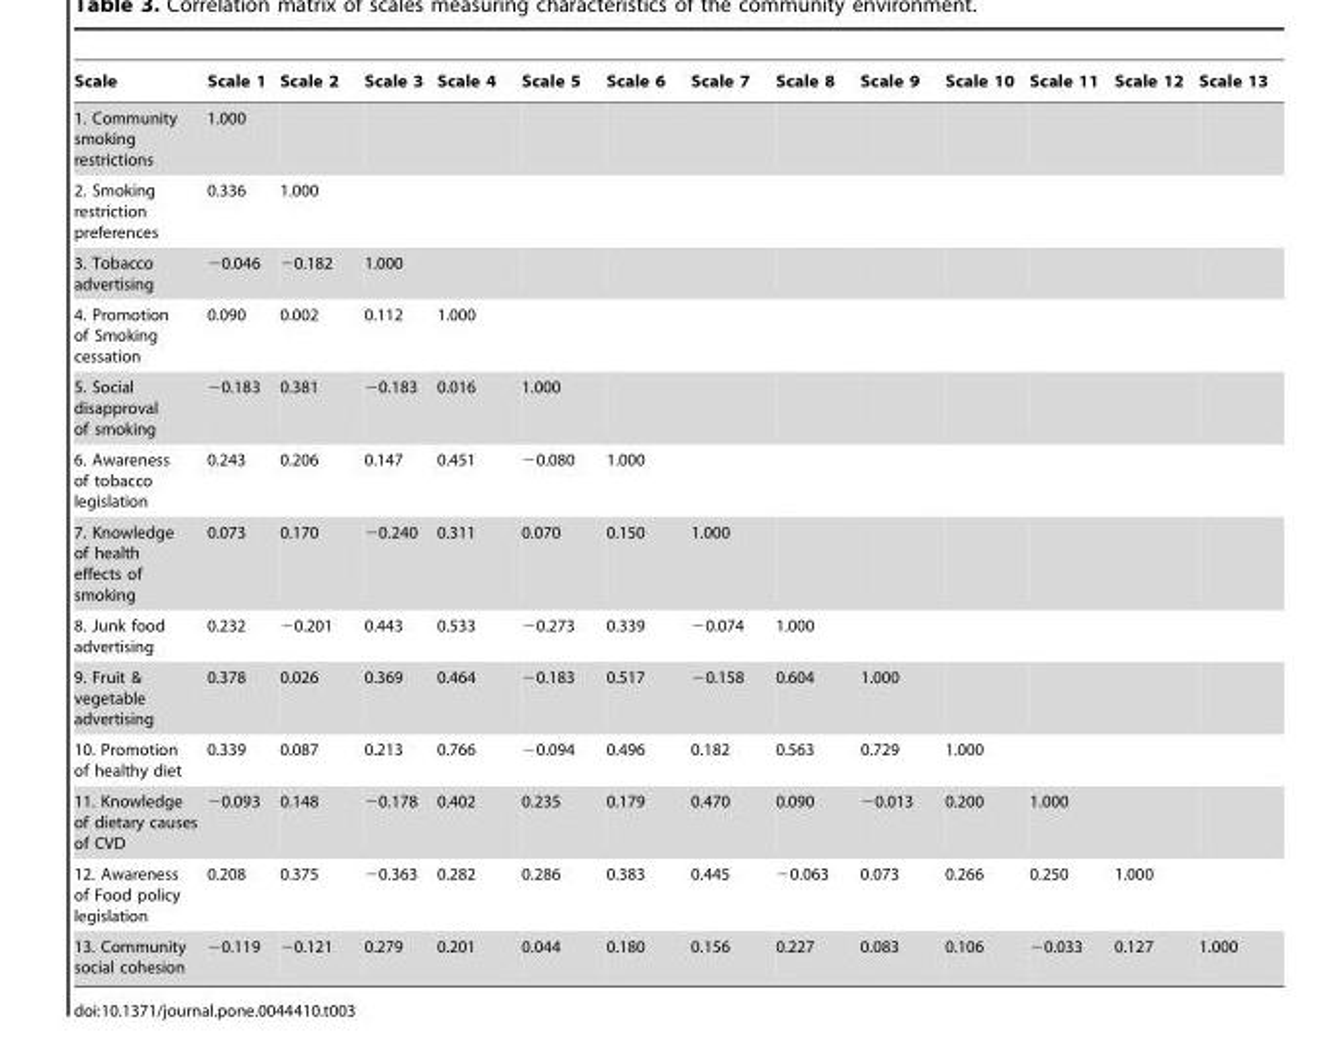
<table><thead><tr><td>Scale</td><td>Scale 1</td><td>Scale 2</td><td>Scale 3</td><td>Scale 4</td><td>Scale 5</td><td>Scale 6</td><td>Scale 7</td><td>Scale 8</td><td>Scale 9</td><td>Scale 10</td><td>Scale 11</td><td>Scale 12</td><td>Scale 13</td></tr></thead><tbody><tr><td>1. Community smoking restrictions</td><td>1.000</td><td></td><td></td><td></td><td></td><td></td><td></td><td></td><td></td><td></td><td></td><td></td><td></td></tr><tr><td>2. Smoking restriction preferences</td><td>0.336</td><td>1.000</td><td></td><td></td><td></td><td></td><td></td><td></td><td></td><td></td><td></td><td></td><td></td></tr><tr><td>3. Tobacco advertising</td><td>−0.046</td><td>−0.182</td><td>1.000</td><td></td><td></td><td></td><td></td><td></td><td></td><td></td><td></td><td></td><td></td></tr><tr><td>4. Promotion of Smoking cessation</td><td>0.090</td><td>0.002</td><td>0.112</td><td>1.000</td><td></td><td></td><td></td><td></td><td></td><td></td><td></td><td></td><td></td></tr><tr><td>5. Social disapproval of smoking</td><td>−0.183</td><td>0.381</td><td>−0.183</td><td>0.016</td><td>1.000</td><td></td><td></td><td></td><td></td><td></td><td></td><td></td><td></td></tr><tr><td>6. Awareness of tobacco legislation</td><td>0.243</td><td>0.206</td><td>0.147</td><td>0.451</td><td>−0.080</td><td>1.000</td><td></td><td></td><td></td><td></td><td></td><td></td><td></td></tr><tr><td>7. Knowledge of health effects of smoking</td><td>0.073</td><td>0.170</td><td>−0.240</td><td>0.311</td><td>0.070</td><td>0.150</td><td>1.000</td><td></td><td></td><td></td><td></td><td></td><td></td></tr><tr><td>8. Junk food advertising</td><td>0.232</td><td>−0.201</td><td>0.443</td><td>0.533</td><td>−0.273</td><td>0.339</td><td>−0.074</td><td>1.000</td><td></td><td></td><td></td><td></td><td></td></tr><tr><td>9. Fruit &amp; vegetable advertising</td><td>0.378</td><td>0.026</td><td>0.369</td><td>0.464</td><td>−0.183</td><td>0.517</td><td>−0.158</td><td>0.604</td><td>1.000</td><td></td><td></td><td></td><td></td></tr><tr><td>10. Promotion of healthy diet</td><td>0.339</td><td>0.087</td><td>0.213</td><td>0.766</td><td>−0.094</td><td>0.496</td><td>0.182</td><td>0.563</td><td>0.729</td><td>1.000</td><td></td><td></td><td></td></tr><tr><td>11. Knowledge of dietary causes of CVD</td><td>−0.093</td><td>0.148</td><td>−0.178</td><td>0.402</td><td>0.235</td><td>0.179</td><td>0.470</td><td>0.090</td><td>−0.013</td><td>0.200</td><td>1.000</td><td></td><td></td></tr><tr><td>12. Awareness of Food policy legislation</td><td>0.208</td><td>0.375</td><td>−0.363</td><td>0.282</td><td>0.286</td><td>0.383</td><td>0.445</td><td>−0.063</td><td>0.073</td><td>0.266</td><td>0.250</td><td>1.000</td><td></td></tr><tr><td>13. Community social cohesion</td><td>−0.119</td><td>−0.121</td><td>0.279</td><td>0.201</td><td>0.044</td><td>0.180</td><td>0.156</td><td>0.227</td><td>0.083</td><td>0.106</td><td>−0.033</td><td>0.127</td><td>1.000</td></tr></tbody></table>